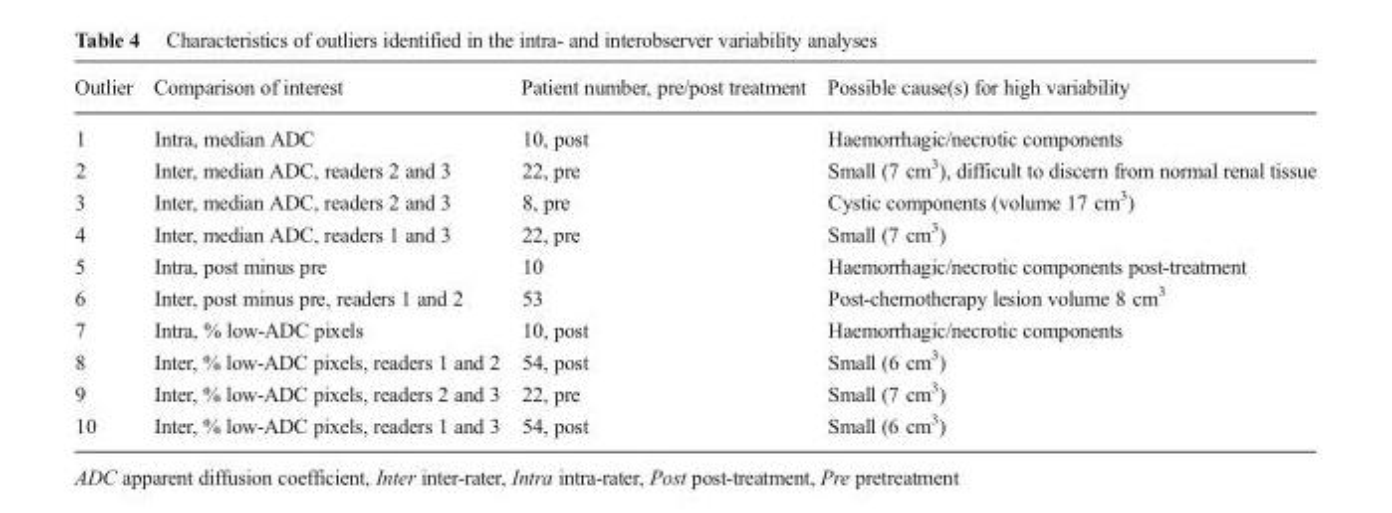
<table><thead><tr><td>Outlier</td><td>Comparison of interest</td><td>Patient number, pre/post treatment</td><td>Possible cause(s) for high variability</td></tr></thead><tbody><tr><td>1</td><td>Intra, median ADC</td><td>10, post</td><td>Haemorrhagic/necrotic components</td></tr><tr><td>2</td><td>Inter, median ADC, readers 2 and 3</td><td>22, pre</td><td>Small (7 cm<sup>3</sup>), difficult to discern from normal renal tissue</td></tr><tr><td>3</td><td>Inter, median ADC, readers 2 and 3</td><td>8, pre</td><td>Cystic components (volume 17 cm<sup>3</sup>)</td></tr><tr><td>4</td><td>Inter, median ADC, readers 1 and 3</td><td>22, pre</td><td>Small (7 cm<sup>3</sup>)</td></tr><tr><td>5</td><td>Intra, post minus pre</td><td>10</td><td>Haemorrhagic/necrotic components post-treatment</td></tr><tr><td>6</td><td>Inter, post minus pre, readers 1 and 2</td><td>53</td><td>Post-chemotherapy lesion volume 8 cm<sup>3</sup></td></tr><tr><td>7</td><td>Intra, % low-ADC pixels</td><td>10, post</td><td>Haemorrhagic/necrotic components</td></tr><tr><td>8</td><td>Inter, % low-ADC pixels, readers 1 and 2</td><td>54, post</td><td>Small (6 cm<sup>3</sup>)</td></tr><tr><td>9</td><td>Inter, % low-ADC pixels, readers 2 and 3</td><td>22, pre</td><td>Small (7 cm<sup>3</sup>)</td></tr><tr><td>10</td><td>Inter, % low-ADC pixels, readers 1 and 3</td><td>54, post</td><td>Small (6 cm<sup>3</sup>)</td></tr></tbody></table>